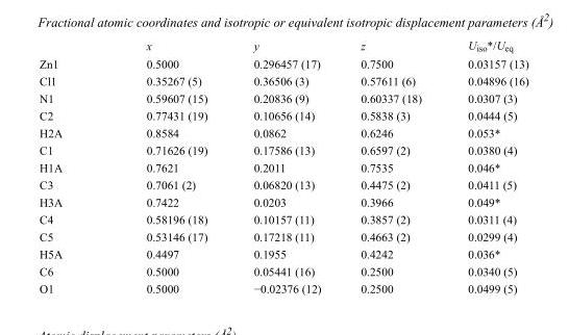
<table><thead><tr><td></td><td>x</td><td>y</td><td>z</td><td>U<sub>iso</sub>*/U<sub>eq</sub></td></tr></thead><tbody><tr><td>Zn1</td><td>0.5000</td><td>0.296457 (17)</td><td>0.7500</td><td>0.03157 (13)</td></tr><tr><td>Cl1</td><td>0.35267 (5)</td><td>0.36506 (3)</td><td>0.57611 (6)</td><td>0.04896 (16)</td></tr><tr><td>N1</td><td>0.59607 (15)</td><td>0.20836 (9)</td><td>0.60337 (18)</td><td>0.0307 (3)</td></tr><tr><td>C2</td><td>0.77431 (19)</td><td>0.10656 (14)</td><td>0.5838 (3)</td><td>0.0444 (5)</td></tr><tr><td>H2A</td><td>0.8584</td><td>0.0862</td><td>0.6246</td><td>0.053*</td></tr><tr><td>C1</td><td>0.71626 (19)</td><td>0.17586 (13)</td><td>0.6597 (2)</td><td>0.0380 (4)</td></tr><tr><td>H1A</td><td>0.7621</td><td>0.2011</td><td>0.7535</td><td>0.046*</td></tr><tr><td>C3</td><td>0.7061 (2)</td><td>0.06820 (13)</td><td>0.4475 (2)</td><td>0.0411 (5)</td></tr><tr><td>H3A</td><td>0.7422</td><td>0.0203</td><td>0.3966</td><td>0.049*</td></tr><tr><td>C4</td><td>0.58196 (18)</td><td>0.10157 (11)</td><td>0.3857 (2)</td><td>0.0311 (4)</td></tr><tr><td>C5</td><td>0.53146 (17)</td><td>0.17218 (11)</td><td>0.4663 (2)</td><td>0.0299 (4)</td></tr><tr><td>H5A</td><td>0.4497</td><td>0.1955</td><td>0.4242</td><td>0.036*</td></tr><tr><td>C6</td><td>0.5000</td><td>0.05441 (16)</td><td>0.2500</td><td>0.0340 (5)</td></tr><tr><td>O1</td><td>0.5000</td><td>−0.02376 (12)</td><td>0.2500</td><td>0.0499 (5)</td></tr></tbody></table>